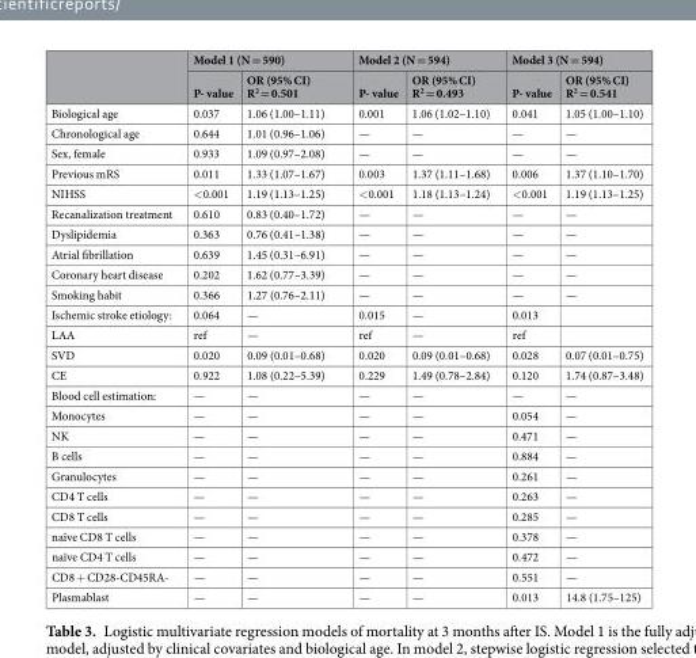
<table><thead><tr><td rowspan="2"></td><td colspan="2">Model 1 (N = 590)</td><td colspan="2">Model 2 (N = 594)</td><td colspan="2">Model 3 (N = 594)</td></tr><tr><td>P- value</td><td>OR (95% CI) R<sup>2</sup> = 0.501</td><td>P- value</td><td>OR (95% CI) R<sup>2</sup> = 0.493</td><td>P- value</td><td>OR (95% CI) R<sup>2</sup> = 0.541</td></tr></thead><tbody><tr><td>Biological age</td><td>0.037</td><td>1.06 (1.00–1.11)</td><td>0.001</td><td>1.06 (1.02–1.10)</td><td>0.041</td><td>1.05 (1.00–1.10)</td></tr><tr><td>Chronological age</td><td>0.644</td><td>1.01 (0.96–1.06)</td><td>—</td><td>—</td><td>—</td><td>—</td></tr><tr><td>Sex, female</td><td>0.933</td><td>1.09 (0.97–2.08)</td><td>—</td><td>—</td><td>—</td><td>—</td></tr><tr><td>Previous mRS</td><td>0.011</td><td>1.33 (1.07–1.67)</td><td>0.003</td><td>1.37 (1.11–1.68)</td><td>0.006</td><td>1.37 (1.10–1.70)</td></tr><tr><td>NIHSS</td><td>&lt;0.001</td><td>1.19 (1.13–1.25)</td><td>&lt;0.001</td><td>1.18 (1.13–1.24)</td><td>&lt;0.001</td><td>1.19 (1.13–1.25)</td></tr><tr><td>Recanalization treatment</td><td>0.610</td><td>0.83 (0.40–1.72)</td><td>—</td><td>—</td><td>—</td><td>—</td></tr><tr><td>Dyslipidemia</td><td>0.363</td><td>0.76 (0.41–1.38)</td><td>—</td><td>—</td><td>—</td><td>—</td></tr><tr><td>Atrial fibrillation</td><td>0.639</td><td>1.45 (0.31–6.91)</td><td>—</td><td>—</td><td>—</td><td>—</td></tr><tr><td>Coronary heart disease</td><td>0.202</td><td>1.62 (0.77–3.39)</td><td>—</td><td>—</td><td>—</td><td>—</td></tr><tr><td>Smoking habit</td><td>0.366</td><td>1.27 (0.76–2.11)</td><td>—</td><td>—</td><td>—</td><td>—</td></tr><tr><td>Ischemic stroke etiology:</td><td>0.064</td><td>—</td><td>0.015</td><td>—</td><td>0.013</td><td></td></tr><tr><td>LAA</td><td>ref</td><td>—</td><td>ref</td><td>—</td><td>ref</td><td></td></tr><tr><td>SVD</td><td>0.020</td><td>0.09 (0.01–0.68)</td><td>0.020</td><td>0.09 (0.01–0.68)</td><td>0.028</td><td>0.07 (0.01–0.75)</td></tr><tr><td>CE</td><td>0.922</td><td>1.08 (0.22–5.39)</td><td>0.229</td><td>1.49 (0.78–2.84)</td><td>0.120</td><td>1.74 (0.87–3.48)</td></tr><tr><td>Blood cell estimation:</td><td>—</td><td>—</td><td>—</td><td>—</td><td>—</td><td>—</td></tr><tr><td>Monocytes</td><td>—</td><td>—</td><td>—</td><td>—</td><td>0.054</td><td>—</td></tr><tr><td>NK</td><td>—</td><td>—</td><td>—</td><td>—</td><td>0.471</td><td>—</td></tr><tr><td>B cells</td><td>—</td><td>—</td><td>—</td><td>—</td><td>0.884</td><td>—</td></tr><tr><td>Granulocytes</td><td>—</td><td>—</td><td>—</td><td>—</td><td>0.261</td><td>—</td></tr><tr><td>CD4 T cells</td><td>—</td><td>—</td><td>—</td><td>—</td><td>0.263</td><td>—</td></tr><tr><td>CD8 T cells</td><td>—</td><td>—</td><td>—</td><td>—</td><td>0.285</td><td>—</td></tr><tr><td>naïve CD8 T cells</td><td>—</td><td>—</td><td>—</td><td>—</td><td>0.378</td><td>—</td></tr><tr><td>naïve CD4 T cells</td><td>—</td><td>—</td><td>—</td><td>—</td><td>0.472</td><td>—</td></tr><tr><td>CD8 + CD28‐CD45RA‐</td><td>—</td><td>—</td><td>—</td><td>—</td><td>0.551</td><td>—</td></tr><tr><td>Plasmablast</td><td>—</td><td>—</td><td>—</td><td>—</td><td>0.013</td><td>14.8 (1.75–125)</td></tr></tbody></table>